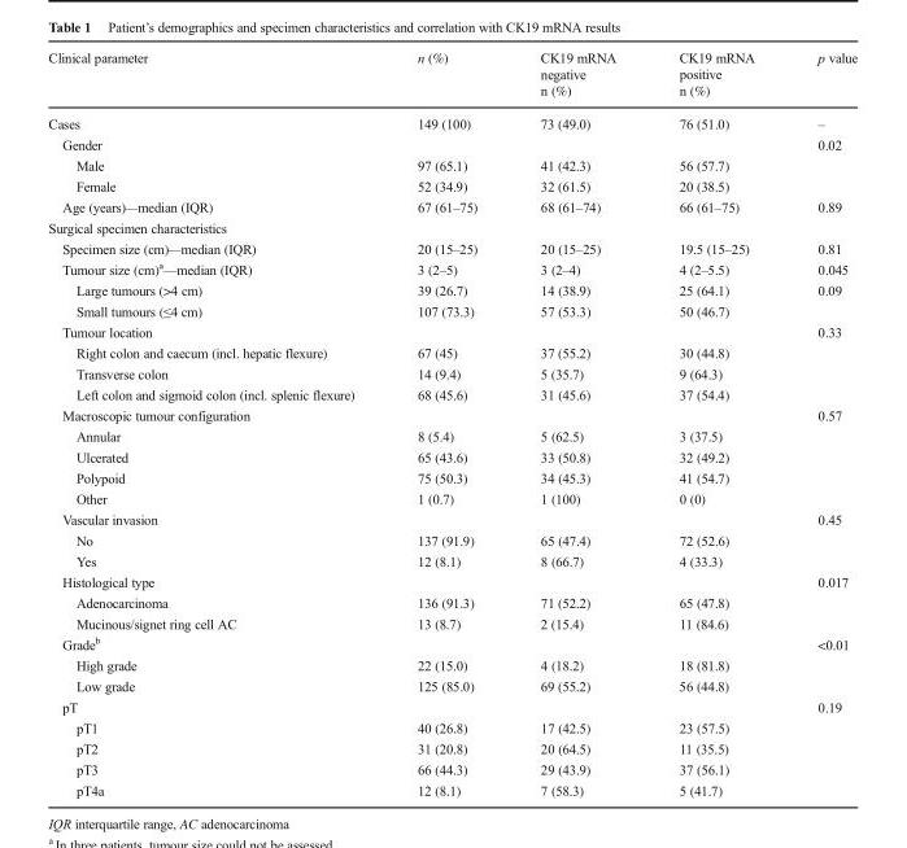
<table><thead><tr><td>Clinical parameter</td><td>n (%)</td><td>CK19 mRNA negative n (%)</td><td>CK19 mRNA positive n (%)</td><td>p value</td></tr></thead><tbody><tr><td>Cases</td><td>149 (100)</td><td>73 (49.0)</td><td>76 (51.0)</td><td>–</td></tr><tr><td>Gender</td><td></td><td></td><td></td><td>0.02</td></tr><tr><td>Male</td><td>97 (65.1)</td><td>41 (42.3)</td><td>56 (57.7)</td><td></td></tr><tr><td>Female</td><td>52 (34.9)</td><td>32 (61.5)</td><td>20 (38.5)</td><td></td></tr><tr><td>Age (years)—median (IQR)</td><td>67 (61–75)</td><td>68 (61–74)</td><td>66 (61–75)</td><td>0.89</td></tr><tr><td colspan="5">Surgical specimen characteristics</td></tr><tr><td>Specimen size (cm)—median (IQR)</td><td>20 (15–25)</td><td>20 (15–25)</td><td>19.5 (15–25)</td><td>0.81</td></tr><tr><td>Tumour size (cm)<sup>a</sup>—median (IQR)</td><td>3 (2–5)</td><td>3 (2–4)</td><td>4 (2–5.5)</td><td>0.045</td></tr><tr><td>Large tumours (&gt;4 cm)</td><td>39 (26.7)</td><td>14 (38.9)</td><td>25 (64.1)</td><td>0.09</td></tr><tr><td>Small tumours (≤4 cm)</td><td>107 (73.3)</td><td>57 (53.3)</td><td>50 (46.7)</td><td></td></tr><tr><td>Tumour location</td><td></td><td></td><td></td><td>0.33</td></tr><tr><td>Right colon and caecum (incl. hepatic flexure)</td><td>67 (45)</td><td>37 (55.2)</td><td>30 (44.8)</td><td></td></tr><tr><td>Transverse colon</td><td>14 (9.4)</td><td>5 (35.7)</td><td>9 (64.3)</td><td></td></tr><tr><td>Left colon and sigmoid colon (incl. splenic flexure)</td><td>68 (45.6)</td><td>31 (45.6)</td><td>37 (54.4)</td><td></td></tr><tr><td>Macroscopic tumour configuration</td><td></td><td></td><td></td><td>0.57</td></tr><tr><td>Annular</td><td>8 (5.4)</td><td>5 (62.5)</td><td>3 (37.5)</td><td></td></tr><tr><td>Ulcerated</td><td>65 (43.6)</td><td>33 (50.8)</td><td>32 (49.2)</td><td></td></tr><tr><td>Polypoid</td><td>75 (50.3)</td><td>34 (45.3)</td><td>41 (54.7)</td><td></td></tr><tr><td>Other</td><td>1 (0.7)</td><td>1 (100)</td><td>0 (0)</td><td></td></tr><tr><td>Vascular invasion</td><td></td><td></td><td></td><td>0.45</td></tr><tr><td>No</td><td>137 (91.9)</td><td>65 (47.4)</td><td>72 (52.6)</td><td></td></tr><tr><td>Yes</td><td>12 (8.1)</td><td>8 (66.7)</td><td>4 (33.3)</td><td></td></tr><tr><td>Histological type</td><td></td><td></td><td></td><td>0.017</td></tr><tr><td>Adenocarcinoma</td><td>136 (91.3)</td><td>71 (52.2)</td><td>65 (47.8)</td><td></td></tr><tr><td>Mucinous/signet ring cell AC</td><td>13 (8.7)</td><td>2 (15.4)</td><td>11 (84.6)</td><td></td></tr><tr><td>Grade<sup>b</sup></td><td></td><td></td><td></td><td>&lt;0.01</td></tr><tr><td>High grade</td><td>22 (15.0)</td><td>4 (18.2)</td><td>18 (81.8)</td><td></td></tr><tr><td>Low grade</td><td>125 (85.0)</td><td>69 (55.2)</td><td>56 (44.8)</td><td></td></tr><tr><td>pT</td><td></td><td></td><td></td><td>0.19</td></tr><tr><td>pT1</td><td>40 (26.8)</td><td>17 (42.5)</td><td>23 (57.5)</td><td></td></tr><tr><td>pT2</td><td>31 (20.8)</td><td>20 (64.5)</td><td>11 (35.5)</td><td></td></tr><tr><td>pT3</td><td>66 (44.3)</td><td>29 (43.9)</td><td>37 (56.1)</td><td></td></tr><tr><td>pT4a</td><td>12 (8.1)</td><td>7 (58.3)</td><td>5 (41.7)</td><td></td></tr></tbody></table>